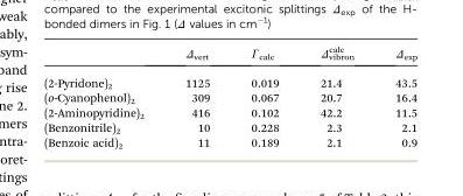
<table><thead><tr><td></td><td>Δ<sub>vert</sub></td><td>Γ<sub>calc</sub></td><td>Δcalc vibron</td><td>Δ<sub>exp</sub></td></tr></thead><tbody><tr><td>(2-Pyridone)<sub>2</sub></td><td>1125</td><td>0.019</td><td>21.4</td><td>43.5</td></tr><tr><td>(o-Cyanophenol)<sub>2</sub></td><td>309</td><td>0.067</td><td>20.7</td><td>16.4</td></tr><tr><td>(2-Aminopyridine)<sub>2</sub></td><td>416</td><td>0.102</td><td>42.2</td><td>11.5</td></tr><tr><td>(Benzonitrile)<sub>2</sub></td><td>10</td><td>0.228</td><td>2.3</td><td>2.1</td></tr><tr><td>(Benzoic acid)<sub>2</sub></td><td>11</td><td>0.189</td><td>2.1</td><td>0.9</td></tr></tbody></table>